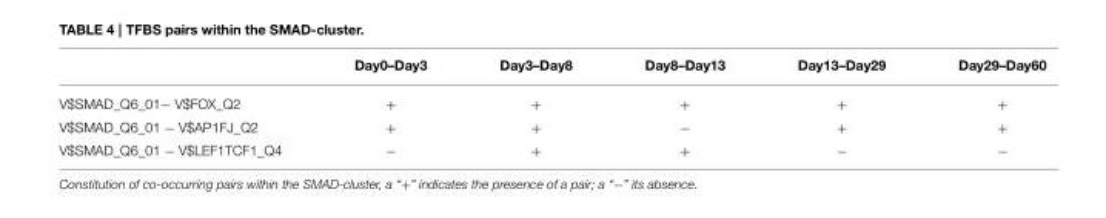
<table><thead><tr><td></td><td>Day0–Day3</td><td>Day3–Day8</td><td>Day8–Day13</td><td>Day13–Day29</td><td>Day29–Day60</td></tr></thead><tbody><tr><td>V$SMAD_Q6_01− V$FOX_Q2</td><td>+</td><td>+</td><td>+</td><td>+</td><td>+</td></tr><tr><td>V$SMAD_Q6_01 − V$AP1FJ_Q2</td><td>+</td><td>+</td><td>−</td><td>+</td><td>+</td></tr><tr><td>V$SMAD_Q6_01 − V$LEF1TCF1_Q4</td><td>−</td><td>+</td><td>+</td><td>−</td><td>−</td></tr></tbody></table>